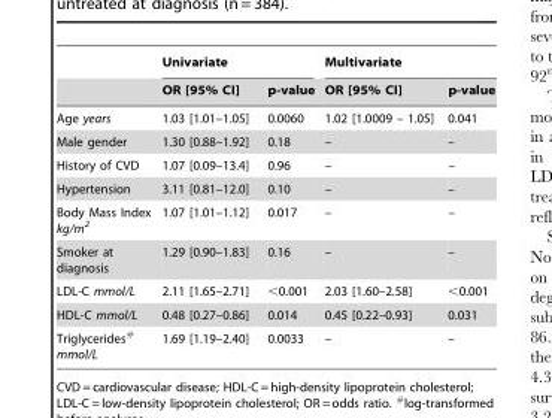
<table><thead><tr><td rowspan="2"></td><td colspan="2">Univariate</td><td colspan="2">Multivariate</td></tr><tr><td>OR [95% CI]</td><td>p-value</td><td>OR [95% CI]</td><td>p-value</td></tr></thead><tbody><tr><td>Age years</td><td>1.03 [1.01–1.05]</td><td>0.0060</td><td>1.02 [1.0009 – 1.05]</td><td>0.041</td></tr><tr><td>Male gender</td><td>1.30 [0.88–1.92]</td><td>0.18</td><td>–</td><td>–</td></tr><tr><td>History of CVD</td><td>1.07 [0.09–13.4]</td><td>0.96</td><td>–</td><td>–</td></tr><tr><td>Hypertension</td><td>3.11 [0.81–12.0]</td><td>0.10</td><td>–</td><td>–</td></tr><tr><td>Body Mass Index kg/m<sup>2</sup></td><td>1.07 [1.01–1.12]</td><td>0.017</td><td>–</td><td>–</td></tr><tr><td>Smoker at diagnosis</td><td>1.29 [0.90–1.83]</td><td>0.16</td><td>–</td><td>–</td></tr><tr><td>LDL-C mmol/L</td><td>2.11 [1.65–2.71]</td><td>&lt;0.001</td><td>2.03 [1.60–2.58]</td><td>&lt;0.001</td></tr><tr><td>HDL-C mmol/L</td><td>0.48 [0.27–0.86]</td><td>0.014</td><td>0.45 [0.22–0.93]</td><td>0.031</td></tr><tr><td>Triglycerides<sup>#</sup> mmol/L</td><td>1.69 [1.19–2.40]</td><td>0.0033</td><td>–</td><td>–</td></tr></tbody></table>